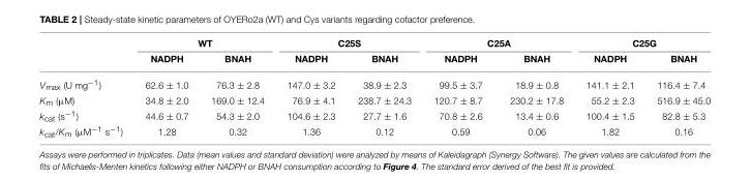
<table><thead><tr><td rowspan="2"></td><td colspan="2">WT</td><td colspan="2">C25S</td><td colspan="2">C25A</td><td colspan="2">C25G</td></tr><tr><td>NADPH</td><td>BNAH</td><td>NADPH</td><td>BNAH</td><td>NADPH</td><td>BNAH</td><td>NADPH</td><td>BNAH</td></tr></thead><tbody><tr><td>V<sub>max</sub> (U mg<sup>−1</sup>)</td><td>62.6 ± 1.0</td><td>76.3 ± 2.8</td><td>147.0 ± 3.2</td><td>38.9 ± 2.3</td><td>99.5 ± 3.7</td><td>18.9 ± 0.8</td><td>141.1 ± 2.1</td><td>116.4 ± 7.4</td></tr><tr><td>K<sub>m</sub> (µM)</td><td>34.8 ± 2.0</td><td>169.0 ± 12.4</td><td>76.9 ± 4.1</td><td>238.7 ± 24.3</td><td>120.7 ± 8.7</td><td>230.2 ± 17.8</td><td>55.2 ± 2.3</td><td>516.9 ± 45.0</td></tr><tr><td>k<sub>cat</sub> (s<sup>−1</sup>)</td><td>44.6 ± 0.7</td><td>54.3 ± 2.0</td><td>104.6 ± 2.3</td><td>27.7 ± 1.6</td><td>70.8 ± 2.6</td><td>13.4 ± 0.6</td><td>100.4 ± 1.5</td><td>82.8 ± 5.3</td></tr><tr><td>k<sub>cat</sub>/K<sub>m</sub> (µM<sup>−1</sup> s<sup>−1</sup>)</td><td>1.28</td><td>0.32</td><td>1.36</td><td>0.12</td><td>0.59</td><td>0.06</td><td>1.82</td><td>0.16</td></tr></tbody></table>